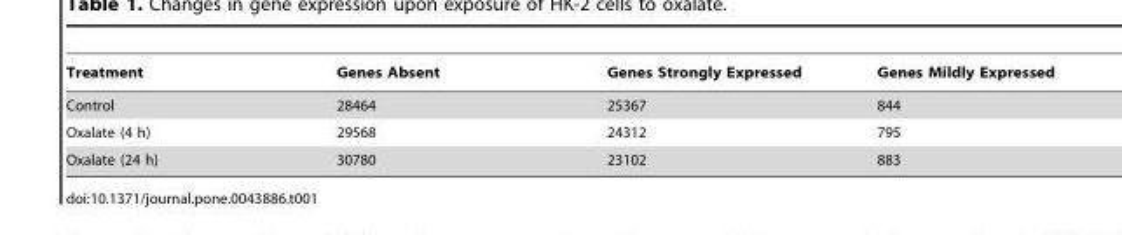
<table><thead><tr><td>Treatment</td><td>Genes Absent</td><td>Genes Strongly Expressed</td><td>Genes Mildly Expressed</td></tr></thead><tbody><tr><td>Control</td><td>28464</td><td>25367</td><td>844</td></tr><tr><td>Oxalate (4 h)</td><td>29568</td><td>24312</td><td>795</td></tr><tr><td>Oxalate (24 h)</td><td>30780</td><td>23102</td><td>883</td></tr></tbody></table>